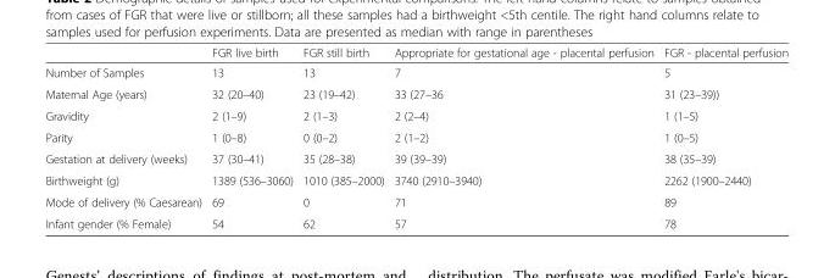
<table><thead><tr><td></td><td>FGR live birth</td><td>FGR still birth</td><td>Appropriate for gestational age - placental perfusion</td><td>FGR - placental perfusion</td></tr></thead><tbody><tr><td>Number of Samples</td><td>13</td><td>13</td><td>7</td><td>5</td></tr><tr><td>Maternal Age (years)</td><td>32 (20–40)</td><td>23 (19–42)</td><td>33 (27–36</td><td>31 (23–39))</td></tr><tr><td>Gravidity</td><td>2 (1–9)</td><td>2 (1–3)</td><td>2 (2–4)</td><td>1 (1–5)</td></tr><tr><td>Parity</td><td>1 (0–8)</td><td>0 (0–2)</td><td>2 (1–2)</td><td>1 (0–5)</td></tr><tr><td>Gestation at delivery (weeks)</td><td>37 (30–41)</td><td>35 (28–38)</td><td>39 (39–39)</td><td>38 (35–39)</td></tr><tr><td>Birthweight (g)</td><td>1389 (536–3060)</td><td>1010 (385–2000)</td><td>3740 (2910–3940)</td><td>2262 (1900–2440)</td></tr><tr><td>Mode of delivery (% Caesarean)</td><td>69</td><td>0</td><td>71</td><td>89</td></tr><tr><td>Infant gender (% Female)</td><td>54</td><td>62</td><td>57</td><td>78</td></tr></tbody></table>